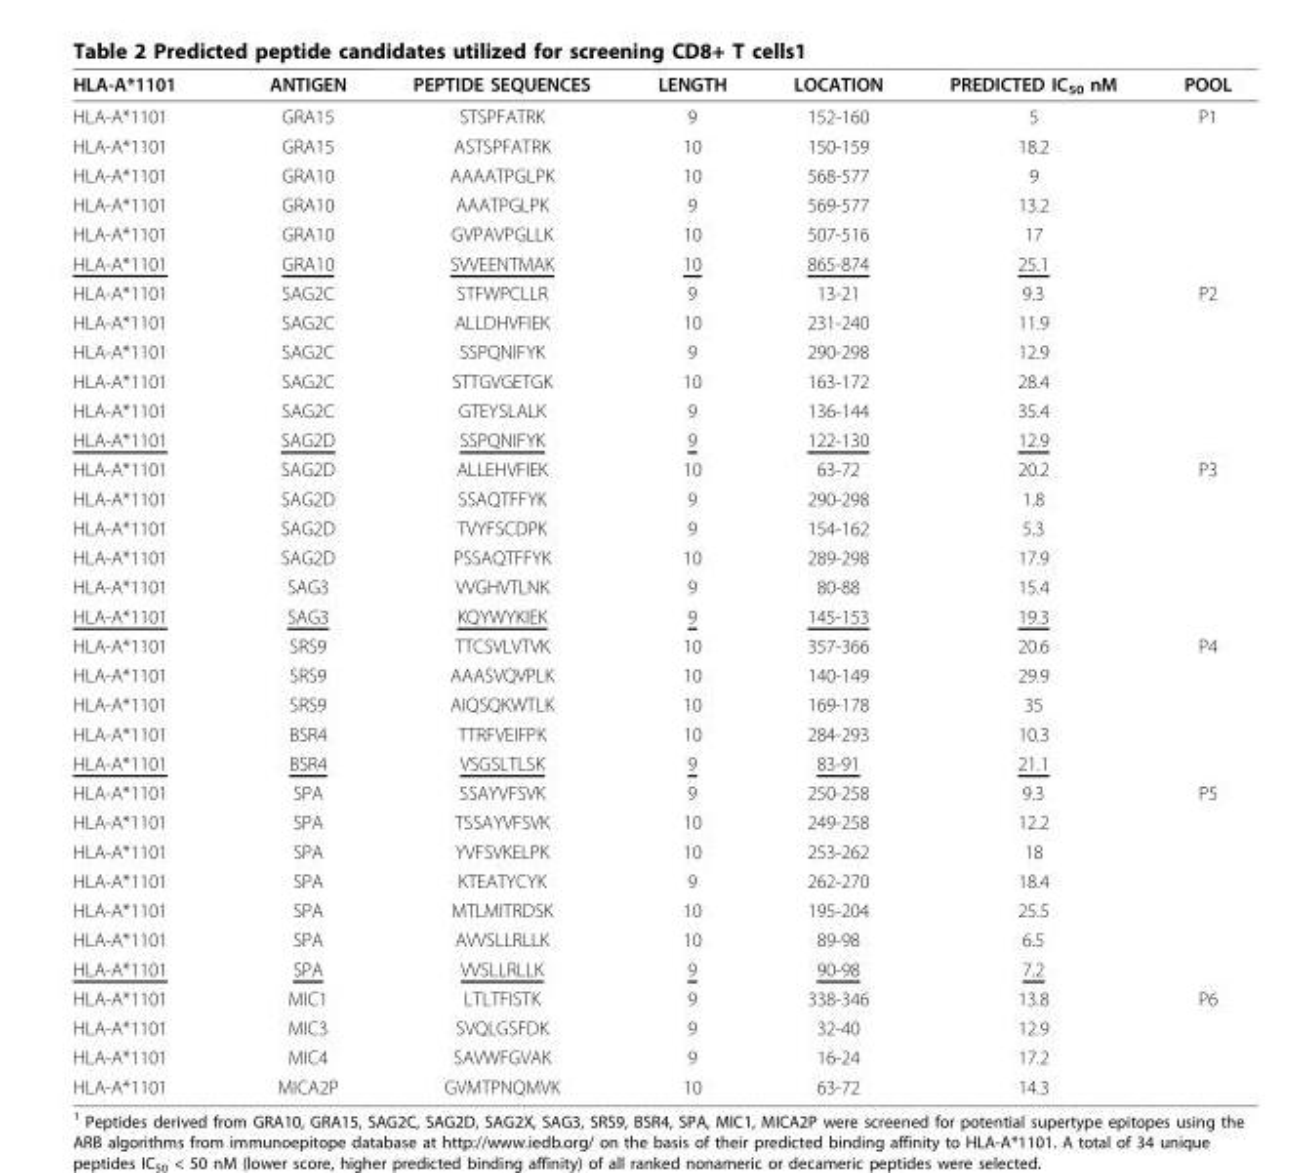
<table><thead><tr><td>HLA-A*1101</td><td>ANTIGEN</td><td>PEPTIDE SEQUENCES</td><td>LENGTH</td><td>LOCATION</td><td>PREDICTED IC<sub>50</sub> nM</td><td>POOL</td></tr></thead><tbody><tr><td>HLA-A*1101</td><td>GRA15</td><td>STSPFATRK</td><td>9</td><td>152-160</td><td>5</td><td>P1</td></tr><tr><td>HLA-A*1101</td><td>GRA15</td><td>ASTSPFATRK</td><td>10</td><td>150-159</td><td>18.2</td><td></td></tr><tr><td>HLA-A*1101</td><td>GRA10</td><td>AAAATPGLPK</td><td>10</td><td>568-577</td><td>9</td><td></td></tr><tr><td>HLA-A*1101</td><td>GRA10</td><td>AAATPGLPK</td><td>9</td><td>569-577</td><td>13.2</td><td></td></tr><tr><td>HLA-A*1101</td><td>GRA10</td><td>GVPAVPGLLK</td><td>10</td><td>507-516</td><td>17</td><td></td></tr><tr><td>HLA-A*1101</td><td>GRA10</td><td>SVVEENTMAK</td><td>10</td><td>865-874</td><td>25.1</td><td></td></tr><tr><td>HLA-A*1101</td><td>SAG2C</td><td>STFWPCLLR</td><td>9</td><td>13-21</td><td>9.3</td><td>P2</td></tr><tr><td>HLA-A*1101</td><td>SAG2C</td><td>ALLDHVFIEK</td><td>10</td><td>231-240</td><td>11.9</td><td></td></tr><tr><td>HLA-A*1101</td><td>SAG2C</td><td>SSPQNIFYK</td><td>9</td><td>290-298</td><td>12.9</td><td></td></tr><tr><td>HLA-A*1101</td><td>SAG2C</td><td>STTGVGETGK</td><td>10</td><td>163-172</td><td>28.4</td><td></td></tr><tr><td>HLA-A*1101</td><td>SAG2C</td><td>GTEYSLALK</td><td>9</td><td>136-144</td><td>35.4</td><td></td></tr><tr><td>HLA-A*1101</td><td>SAG2D</td><td>SSPQNIFYK</td><td>9</td><td>122-130</td><td>12.9</td><td></td></tr><tr><td>HLA-A*1101</td><td>SAG2D</td><td>ALLEHVFIEK</td><td>10</td><td>63-72</td><td>20.2</td><td>P3</td></tr><tr><td>HLA-A*1101</td><td>SAG2D</td><td>SSAQTFFYK</td><td>9</td><td>290-298</td><td>1.8</td><td></td></tr><tr><td>HLA-A*1101</td><td>SAG2D</td><td>TVYFSCDPK</td><td>9</td><td>154-162</td><td>5.3</td><td></td></tr><tr><td>HLA-A*1101</td><td>SAG2D</td><td>PSSAQTFFYK</td><td>10</td><td>289-298</td><td>17.9</td><td></td></tr><tr><td>HLA-A*1101</td><td>SAG3</td><td>VVGHVTLNK</td><td>9</td><td>80-88</td><td>15.4</td><td></td></tr><tr><td>HLA-A*1101</td><td>SAG3</td><td>KQYWYKIEK</td><td>9</td><td>145-153</td><td>19.3</td><td></td></tr><tr><td>HLA-A*1101</td><td>SRS9</td><td>TTCSVLVTVK</td><td>10</td><td>357-366</td><td>20.6</td><td>P4</td></tr><tr><td>HLA-A*1101</td><td>SRS9</td><td>AAASVQVPLK</td><td>10</td><td>140-149</td><td>29.9</td><td></td></tr><tr><td>HLA-A*1101</td><td>SRS9</td><td>AIQSQKWTLK</td><td>10</td><td>169-178</td><td>35</td><td></td></tr><tr><td>HLA-A*1101</td><td>BSR4</td><td>TTRFVEIFPK</td><td>10</td><td>284-293</td><td>10.3</td><td></td></tr><tr><td>HLA-A*1101</td><td>BSR4</td><td>VSGSLTLSK</td><td>9</td><td>83-91</td><td>21.1</td><td></td></tr><tr><td>HLA-A*1101</td><td>SPA</td><td>SSAYVFSVK</td><td>9</td><td>250-258</td><td>9.3</td><td>P5</td></tr><tr><td>HLA-A*1101</td><td>SPA</td><td>TSSAYVFSVK</td><td>10</td><td>249-258</td><td>12.2</td><td></td></tr><tr><td>HLA-A*1101</td><td>SPA</td><td>YVFSVKELPK</td><td>10</td><td>253-262</td><td>18</td><td></td></tr><tr><td>HLA-A*1101</td><td>SPA</td><td>KTEATYCYK</td><td>9</td><td>262-270</td><td>18.4</td><td></td></tr><tr><td>HLA-A*1101</td><td>SPA</td><td>MTLMITRDSK</td><td>10</td><td>195-204</td><td>25.5</td><td></td></tr><tr><td>HLA-A*1101</td><td>SPA</td><td>AVVSLLRLLK</td><td>10</td><td>89-98</td><td>6.5</td><td></td></tr><tr><td>HLA-A*1101</td><td>SPA</td><td>VVSLLRLLK</td><td>9</td><td>90-98</td><td>7.2</td><td></td></tr><tr><td>HLA-A*1101</td><td>MIC1</td><td>LTLTFISTK</td><td>9</td><td>338-346</td><td>13.8</td><td>P6</td></tr><tr><td>HLA-A*1101</td><td>MIC3</td><td>SVQLGSFDK</td><td>9</td><td>32-40</td><td>12.9</td><td></td></tr><tr><td>HLA-A*1101</td><td>MIC4</td><td>SAVWFGVAK</td><td>9</td><td>16-24</td><td>17.2</td><td></td></tr><tr><td>HLA-A*1101</td><td>MICA2P</td><td>GVMTPNQMVK</td><td>10</td><td>63-72</td><td>14.3</td><td></td></tr></tbody></table>